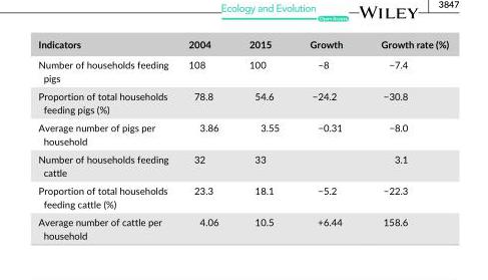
<table><thead><tr><td>Indicators</td><td>2004</td><td>2015</td><td>Growth</td><td>Growth rate (%)</td></tr></thead><tbody><tr><td>Number of households feeding pigs</td><td>108</td><td>100</td><td>−8</td><td>−7.4</td></tr><tr><td>Proportion of total households feeding pigs (%)</td><td>78.8</td><td>54.6</td><td>−24.2</td><td>−30.8</td></tr><tr><td>Average number of pigs per household</td><td>3.86</td><td>3.55</td><td>−0.31</td><td>−8.0</td></tr><tr><td>Number of households feeding cattle</td><td>32</td><td>33</td><td></td><td>3.1</td></tr><tr><td>Proportion of total households feeding cattle (%)</td><td>23.3</td><td>18.1</td><td>−5.2</td><td>−22.3</td></tr><tr><td>Average number of cattle per household</td><td>4.06</td><td>10.5</td><td>+6.44</td><td>158.6</td></tr></tbody></table>